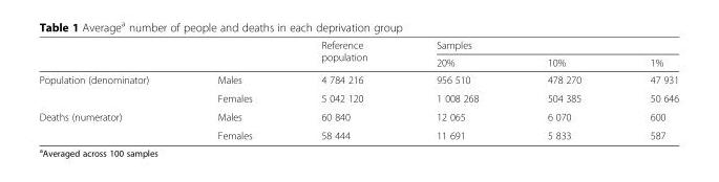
<table><thead><tr><td rowspan="2"></td><td rowspan="2"></td><td rowspan="2">Reference population</td><td colspan="3">Samples</td></tr><tr><td>20%</td><td>10%</td><td>1%</td></tr></thead><tbody><tr><td rowspan="2">Population (denominator)</td><td>Males</td><td>4 784 216</td><td>956 510</td><td>478 270</td><td>47 931</td></tr><tr><td>Females</td><td>5 042 120</td><td>1 008 268</td><td>504 385</td><td>50 646</td></tr><tr><td rowspan="2">Deaths (numerator)</td><td>Males</td><td>60 840</td><td>12 065</td><td>6 070</td><td>600</td></tr><tr><td>Females</td><td>58 444</td><td>11 691</td><td>5 833</td><td>587</td></tr></tbody></table>